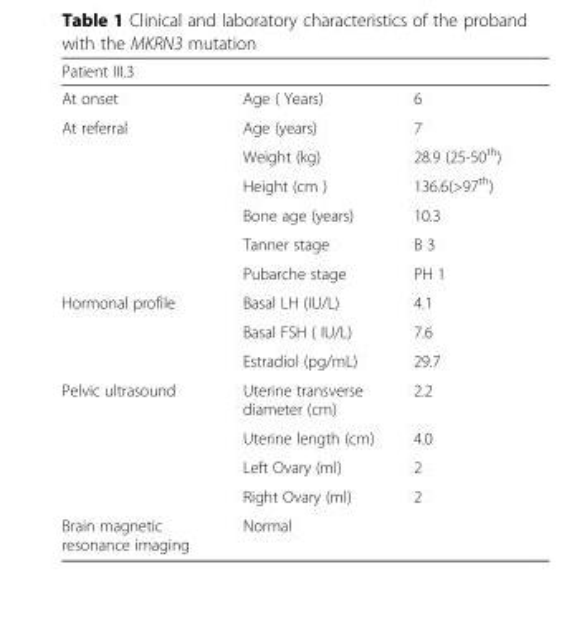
<table><thead><tr><td colspan="3">Patient III.3</td></tr><tr><td>At onset</td><td>Age ( Years)</td><td>6</td></tr></thead><tbody><tr><td rowspan="6">At referral</td><td>Age (years)</td><td>7</td></tr><tr><td>Weight (kg)</td><td>28.9 (25-50<sup>th</sup>)</td></tr><tr><td>Height (cm )</td><td>136.6(&gt;97<sup>th</sup>)</td></tr><tr><td>Bone age (years)</td><td>10.3</td></tr><tr><td>Tanner stage</td><td>B 3</td></tr><tr><td>Pubarche stage</td><td>PH 1</td></tr><tr><td rowspan="3">Hormonal profile</td><td>Basal LH (IU/L)</td><td>4.1</td></tr><tr><td>Basal FSH ( IU/L)</td><td>7.6</td></tr><tr><td>Estradiol (pg/mL)</td><td>29.7</td></tr><tr><td rowspan="4">Pelvic ultrasound</td><td>Uterine transverse diameter (cm)</td><td>2.2</td></tr><tr><td>Uterine length (cm)</td><td>4.0</td></tr><tr><td>Left Ovary (ml)</td><td>2</td></tr><tr><td>Right Ovary (ml)</td><td>2</td></tr><tr><td>Brain magnetic resonance imaging</td><td colspan="2">Normal</td></tr></tbody></table>